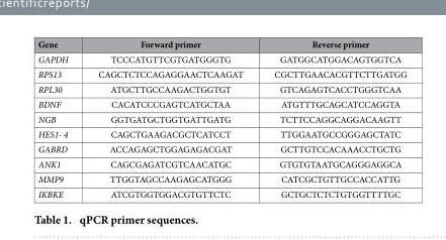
<table><thead><tr><td>Gene</td><td>Forward primer</td><td>Reverse primer</td></tr></thead><tbody><tr><td>GAPDH</td><td>TCCCATGTTCGTGATGGGTG</td><td>GATGGCATGGACAGTGGTCA</td></tr><tr><td>RPS13</td><td>CAGCTCTCCAGAGGAACTCAAGAT</td><td>CGCTTGAACACGTTCTTGATGG</td></tr><tr><td>RPL30</td><td>ATGCTTGCCAAGACTGGTGT</td><td>GTCAGAGTCACCTGGGTCAA</td></tr><tr><td>BDNF</td><td>CACATCCCGAGTCATGCTAA</td><td>ATGTTTGCAGCATCCAGGTA</td></tr><tr><td>NGB</td><td>GGTGATGCTGGTGATTGATG</td><td>TCTTCCAGGCAGGACAAGTT</td></tr><tr><td>HES1- 4</td><td>CAGCTGAAGACGCTCATCCT</td><td>TTGGAATGCCGGGAGCTATC</td></tr><tr><td>GABRD</td><td>ACCAGAGCTGGAGAGACGAT</td><td>GCTTGTCCACAAACCTGCTG</td></tr><tr><td>ANK1</td><td>CAGCGAGATCGTCAACATGC</td><td>GTGTGTAATGCAGGGAGGCA</td></tr><tr><td>MMP9</td><td>TTGGTAGCCAAGAGCATGGG</td><td>CATCGCTGTTGCCACCATTG</td></tr><tr><td>IKBKE</td><td>ATCGTGGTGGACGTGTTCTC</td><td>GCTGCTCTCTGTGGTTTTGC</td></tr></tbody></table>